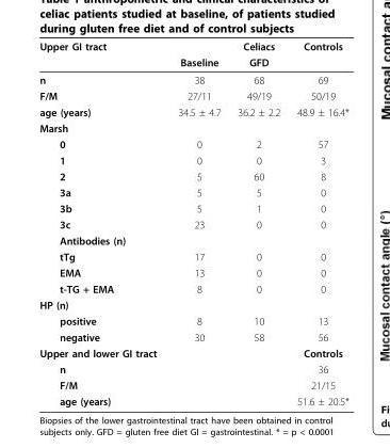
<table><thead><tr><td rowspan="2">Upper GI tract</td><td rowspan="2">Baseline</td><td rowspan="2">Celiacs GFD</td><td rowspan="2">Controls</td></tr><tr></tr></thead><tbody><tr><td>n</td><td>38</td><td>68</td><td>69</td></tr><tr><td>F/M</td><td>27/11</td><td>49/19</td><td>50/19</td></tr><tr><td>age (years)</td><td>34.5 ± 4.7</td><td>36.2 ± 2.2</td><td>48.9 ± 16.4*</td></tr><tr><td colspan="4">Marsh</td></tr><tr><td>0</td><td>0</td><td>2</td><td>57</td></tr><tr><td>1</td><td>0</td><td>0</td><td>3</td></tr><tr><td>2</td><td>5</td><td>60</td><td>8</td></tr><tr><td>3a</td><td>5</td><td>5</td><td>0</td></tr><tr><td>3b</td><td>5</td><td>1</td><td>0</td></tr><tr><td>3c</td><td>23</td><td>0</td><td>0</td></tr><tr><td colspan="4">Antibodies (n)</td></tr><tr><td>tTg</td><td>17</td><td>0</td><td>0</td></tr><tr><td>EMA</td><td>13</td><td>0</td><td>0</td></tr><tr><td>t-TG + EMA</td><td>8</td><td>0</td><td>0</td></tr><tr><td colspan="4">HP (n)</td></tr><tr><td>positive</td><td>8</td><td>10</td><td>13</td></tr><tr><td>negative</td><td>30</td><td>58</td><td>56</td></tr><tr><td>Upper and lower GI tract</td><td></td><td></td><td>Controls</td></tr><tr><td>n</td><td></td><td></td><td>36</td></tr><tr><td>F/M</td><td></td><td></td><td>21/15</td></tr><tr><td>age (years)</td><td></td><td></td><td>51.6 ± 20.5*</td></tr></tbody></table>